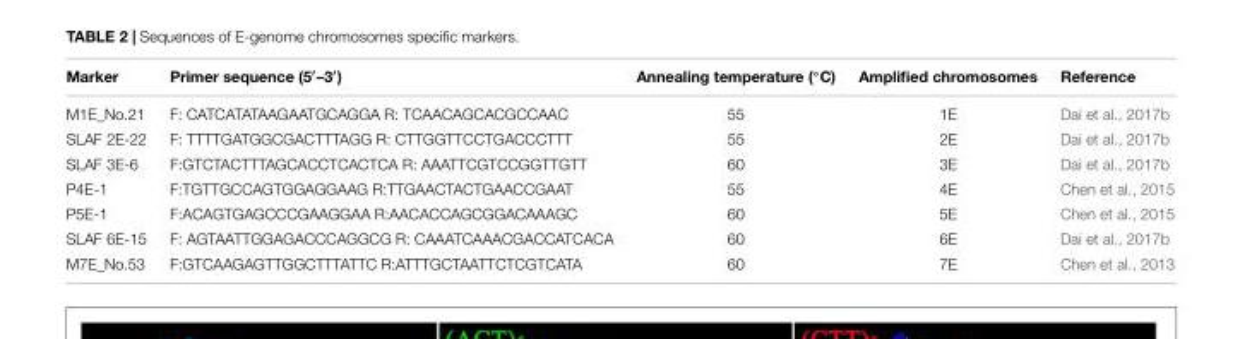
<table><thead><tr><td>Marker</td><td>Primer sequence (5′–3′)</td><td>Annealing temperature (◦C)</td><td>Amplified chromosomes</td><td>Reference</td></tr></thead><tbody><tr><td>M1E_No.21</td><td>F: CATCATATAAGAATGCAGGA R: TCAACAGCACGCCAAC</td><td>55</td><td>1E</td><td>Dai et al., 2017b</td></tr><tr><td>SLAF 2E-22</td><td>F: TTTTGATGGCGACTTTAGG R: CTTGGTTCCTGACCCTTT</td><td>55</td><td>2E</td><td>Dai et al., 2017b</td></tr><tr><td>SLAF 3E-6</td><td>F:GTCTACTTTAGCACCTCACTCA R: AAATTCGTCCGGTTGTT</td><td>60</td><td>3E</td><td>Dai et al., 2017b</td></tr><tr><td>P4E-1</td><td>F:TGTTGCCAGTGGAGGAAG R:TTGAACTACTGAACCGAAT</td><td>55</td><td>4E</td><td>Chen et al., 2015</td></tr><tr><td>P5E-1</td><td>F:ACAGTGAGCCCGAAGGAA R:AACACCAGCGGACAAAGC</td><td>60</td><td>5E</td><td>Chen et al., 2015</td></tr><tr><td>SLAF 6E-15</td><td>F: AGTAATTGGAGACCCAGGCG R: CAAATCAAACGACCATCACA</td><td>60</td><td>6E</td><td>Dai et al., 2017b</td></tr><tr><td>M7E_No.53</td><td>F:GTCAAGAGTTGGCTTTATTC R:ATTTGCTAATTCTCGTCATA</td><td>60</td><td>7E</td><td>Chen et al., 2013</td></tr></tbody></table>